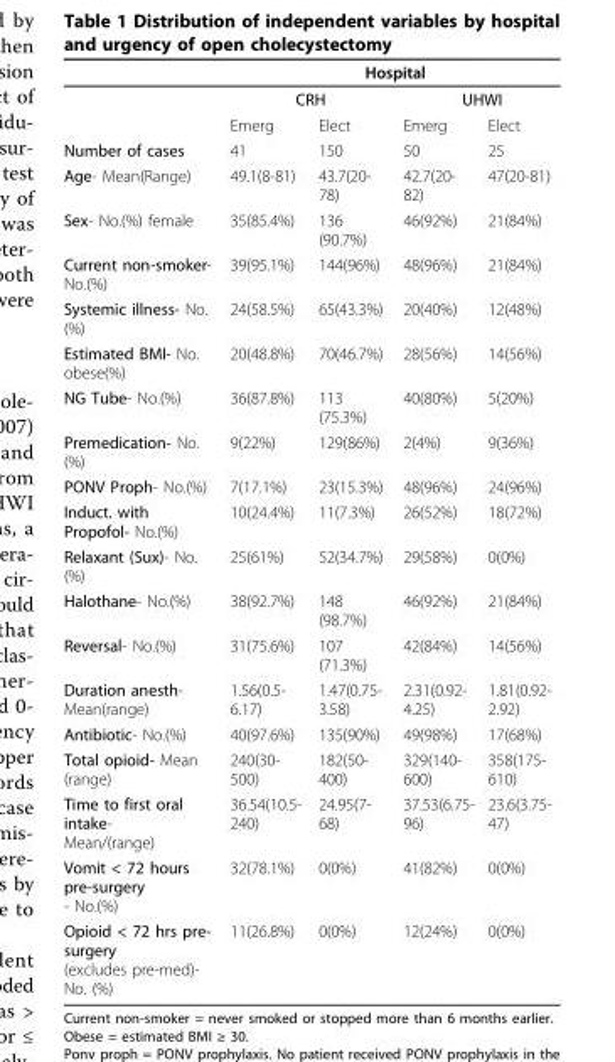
<table><thead><tr><td rowspan="3"></td><td colspan="4">Hospital</td></tr><tr><td colspan="2">CRH</td><td colspan="2">UHWI</td></tr><tr><td>Emerg</td><td>Elect</td><td>Emerg</td><td>Elect</td></tr></thead><tbody><tr><td>Number of cases</td><td>41</td><td>150</td><td>50</td><td>25</td></tr><tr><td>Age- Mean(Range)</td><td>49.1(8-81)</td><td>43.7(20- 78)</td><td>42.7(20- 82)</td><td>47(20-81)</td></tr><tr><td>Sex- No.(%) female</td><td>35(85.4%)</td><td>136 (90.7%)</td><td>46(92%)</td><td>21(84%)</td></tr><tr><td>Current non-smoker- No.(%)</td><td>39(95.1%)</td><td>144(96%)</td><td>48(96%)</td><td>21(84%)</td></tr><tr><td>Systemic illness- No. (%)</td><td>24(58.5%)</td><td>65(43.3%)</td><td>20(40%)</td><td>12(48%)</td></tr><tr><td>Estimated BMI- No. obese(%)</td><td>20(48.8%)</td><td>70(46.7%)</td><td>28(56%)</td><td>14(56%)</td></tr><tr><td>NG Tube- No.(%)</td><td>36(87.8%)</td><td>113 (75.3%)</td><td>40(80%)</td><td>5(20%)</td></tr><tr><td>Premedication- No. (%)</td><td>9(22%)</td><td>129(86%)</td><td>2(4%)</td><td>9(36%)</td></tr><tr><td>PONV Proph- No.(%)</td><td>7(17.1%)</td><td>23(15.3%)</td><td>48(96%)</td><td>24(96%)</td></tr><tr><td>Induct. with Propofol- No.(%)</td><td>10(24.4%)</td><td>11(7.3%)</td><td>26(52%)</td><td>18(72%)</td></tr><tr><td>Relaxant (Sux)- No. (%)</td><td>25(61%)</td><td>52(34.7%)</td><td>29(58%)</td><td>0(0%)</td></tr><tr><td>Halothane- No.(%)</td><td>38(92.7%)</td><td>148 (98.7%)</td><td>46(92%)</td><td>21(84%)</td></tr><tr><td>Reversal- No.(%)</td><td>31(75.6%)</td><td>107 (71.3%)</td><td>42(84%)</td><td>14(56%)</td></tr><tr><td>Duration anesth- Mean(range)</td><td>1.56(0.5- 6.17)</td><td>1.47(0.75- 3.58)</td><td>2.31(0.92- 4.25)</td><td>1.81(0.92- 2.92)</td></tr><tr><td>Antibiotic- No.(%)</td><td>40(97.6%)</td><td>135(90%)</td><td>49(98%)</td><td>17(68%)</td></tr><tr><td>Total opioid- Mean (range)</td><td>240(30- 500)</td><td>182(50- 400)</td><td>329(140- 600)</td><td>358(175- 610)</td></tr><tr><td>Time to first oral intake- Mean/(range)</td><td>36.54(10.5- 240)</td><td>24.95(7- 68)</td><td>37.53(6.75- 96)</td><td>23.6(3.75- 47)</td></tr><tr><td>Vomit &lt; 72 hours pre-surgery - No.(%)</td><td>32(78.1%)</td><td>0(0%)</td><td>41(82%)</td><td>0(0%)</td></tr><tr><td>Opioid &lt; 72 hrs pre- surgery (excludes pre-med)- No. (%)</td><td>11(26.8%)</td><td>0(0%)</td><td>12(24%)</td><td>0(0%)</td></tr></tbody></table>